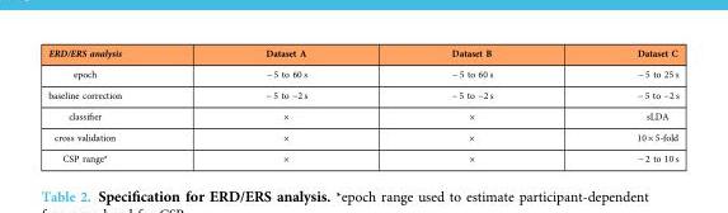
<table><thead><tr><td>ERD/ERS analysis</td><td>Dataset A</td><td>Dataset B</td><td>Dataset C</td></tr></thead><tbody><tr><td>epoch</td><td>− 5 to 60 s</td><td>− 5 to 60 s</td><td>− 5 to 25 s</td></tr><tr><td>baseline correction</td><td>− 5 to −2 s</td><td>− 5 to −2 s</td><td>− 5 to −2 s</td></tr><tr><td>classifier</td><td>×</td><td>×</td><td>sLDA</td></tr><tr><td>cross validation</td><td>×</td><td>×</td><td>10 × 5-fold</td></tr><tr><td>CSP range*</td><td>×</td><td>×</td><td>− 2 to 10 s</td></tr></tbody></table>